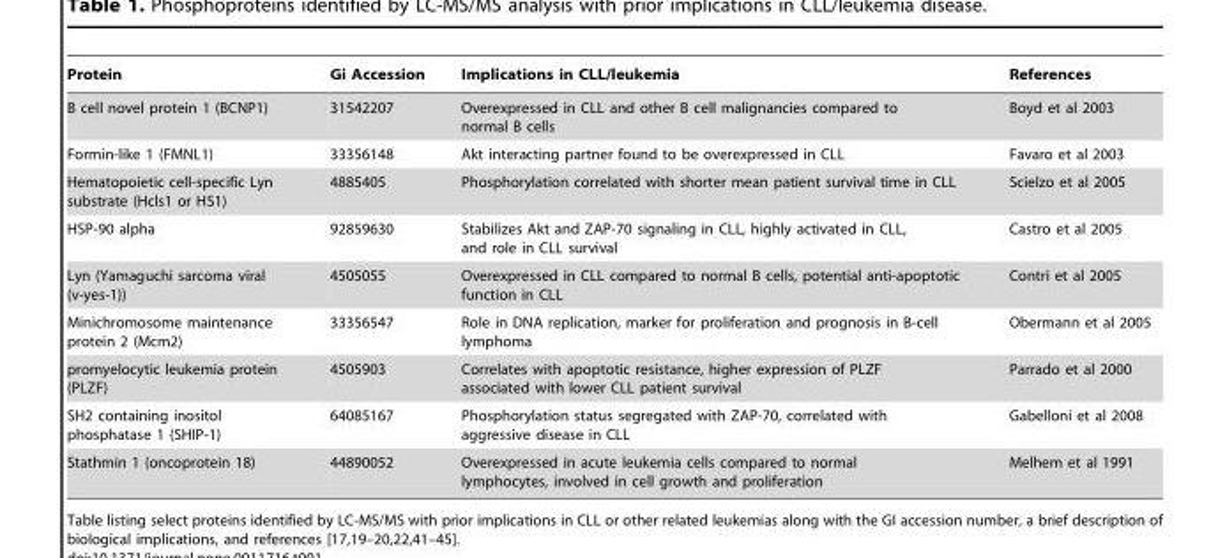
<table><thead><tr><td>Protein</td><td>Gi Accession</td><td>Implications in CLL/leukemia</td><td>References</td></tr></thead><tbody><tr><td>B cell novel protein 1 (BCNP1)</td><td>31542207</td><td>Overexpressed in CLL and other B cell malignancies compared to normal B cells</td><td>Boyd et al 2003</td></tr><tr><td>Formin-like 1 (FMNL1)</td><td>33356148</td><td>Akt interacting partner found to be overexpressed in CLL</td><td>Favaro et al 2003</td></tr><tr><td>Hematopoietic cell-specific Lyn substrate (Hcls1 or HS1)</td><td>4885405</td><td>Phosphorylation correlated with shorter mean patient survival time in CLL</td><td>Scielzo et al 2005</td></tr><tr><td>HSP-90 alpha</td><td>92859630</td><td>Stabilizes Akt and ZAP-70 signaling in CLL, highly activated in CLL, and role in CLL survival</td><td>Castro et al 2005</td></tr><tr><td>Lyn (Yamaguchi sarcoma viral (v-yes-1))</td><td>4505055</td><td>Overexpressed in CLL compared to normal B cells, potential anti-apoptotic function in CLL</td><td>Contri et al 2005</td></tr><tr><td>Minichromosome maintenance protein 2 (Mcm2)</td><td>33356547</td><td>Role in DNA replication, marker for proliferation and prognosis in B-cell lymphoma</td><td>Obermann et al 2005</td></tr><tr><td>promyelocytic leukemia protein (PLZF)</td><td>4505903</td><td>Correlates with apoptotic resistance, higher expression of PLZF associated with lower CLL patient survival</td><td>Parrado et al 2000</td></tr><tr><td>SH2 containing inositol phosphatase 1 (SHIP-1)</td><td>64085167</td><td>Phosphorylation status segregated with ZAP-70, correlated with aggressive disease in CLL</td><td>Gabelloni et al 2008</td></tr><tr><td>Stathmin 1 (oncoprotein 18)</td><td>44890052</td><td>Overexpressed in acute leukemia cells compared to normal lymphocytes, involved in cell growth and proliferation</td><td>Melhem et al 1991</td></tr></tbody></table>